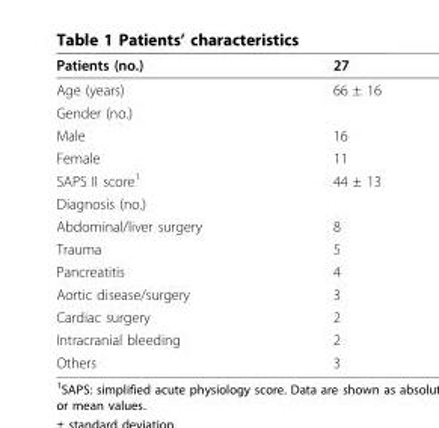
<table><thead><tr><td>Patients (no.)</td><td>27</td></tr></thead><tbody><tr><td>Age (years)</td><td>66 ± 16</td></tr><tr><td colspan="2">Gender (no.)</td></tr><tr><td>Male</td><td>16</td></tr><tr><td>Female</td><td>11</td></tr><tr><td>SAPS II score<sup>1</sup></td><td>44 ± 13</td></tr><tr><td colspan="2">Diagnosis (no.)</td></tr><tr><td>Abdominal/liver surgery</td><td>8</td></tr><tr><td>Trauma</td><td>5</td></tr><tr><td>Pancreatitis</td><td>4</td></tr><tr><td>Aortic disease/surgery</td><td>3</td></tr><tr><td>Cardiac surgery</td><td>2</td></tr><tr><td>Intracranial bleeding</td><td>2</td></tr><tr><td>Others</td><td>3</td></tr></tbody></table>